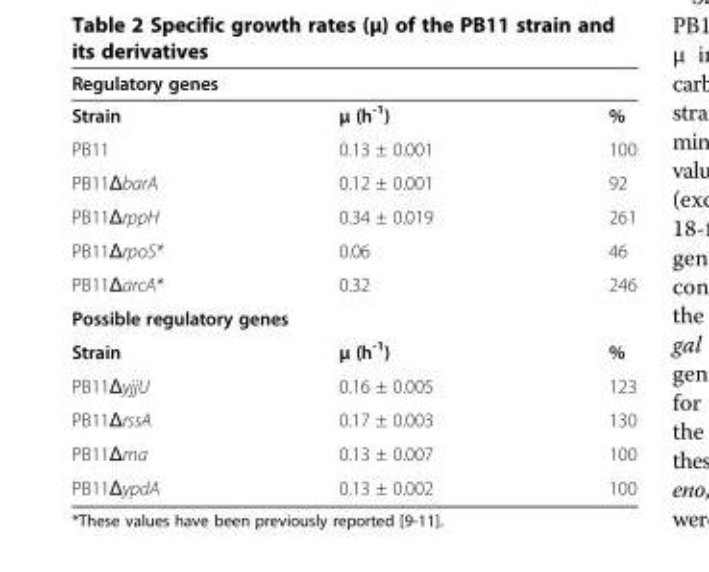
<table><thead><tr><td colspan="3">Regulatory genes</td></tr><tr><td>Strain</td><td>μ (h<sup>-1</sup>)</td><td>%</td></tr></thead><tbody><tr><td>PB11</td><td>0.13 ± 0.001</td><td>100</td></tr><tr><td>PB11ΔbarA</td><td>0.12 ± 0.001</td><td>92</td></tr><tr><td>PB11ΔrppH</td><td>0.34 ± 0.019</td><td>261</td></tr><tr><td>PB11ΔrpoS*</td><td>0.06</td><td>46</td></tr><tr><td>PB11ΔarcA*</td><td>0.32</td><td>246</td></tr><tr><td colspan="3">Possible regulatory genes</td></tr><tr><td>Strain</td><td>μ (h<sup>-1</sup>)</td><td>%</td></tr><tr><td>PB11ΔyjjU</td><td>0.16 ± 0.005</td><td>123</td></tr><tr><td>PB11ΔrssA</td><td>0.17 ± 0.003</td><td>130</td></tr><tr><td>PB11Δrna</td><td>0.13 ± 0.007</td><td>100</td></tr><tr><td>PB11ΔypdA</td><td>0.13 ± 0.002</td><td>100</td></tr></tbody></table>